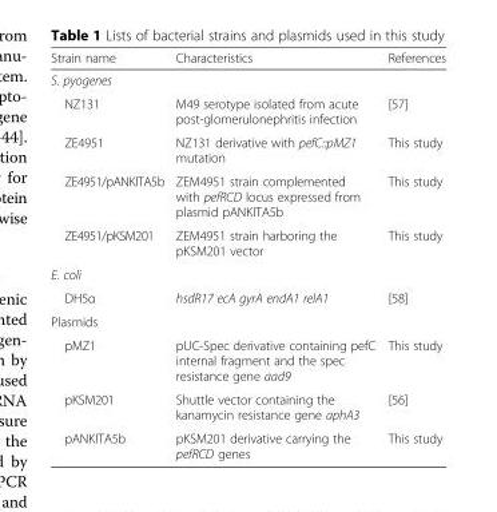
<table><thead><tr><td>Strain name</td><td>Characteristics</td><td>References</td></tr></thead><tbody><tr><td colspan="3">S. pyogenes</td></tr><tr><td>NZ131</td><td>M49 serotype isolated from acute post-glomerulonephritis infection</td><td>[57]</td></tr><tr><td>ZE4951</td><td>NZ131 derivative with pefC::pMZ1 mutation</td><td>This study</td></tr><tr><td>ZE4951/pANKITA5b</td><td>ZEM4951 strain complemented with pefRCD locus expressed from plasmid pANKITA5b</td><td>This study</td></tr><tr><td>ZE4951/pKSM201</td><td>ZEM4951 strain harboring the pKSM201 vector</td><td>This study</td></tr><tr><td colspan="3">E. coli</td></tr><tr><td>DH5α</td><td>hsdR17 ecA gyrA endA1 relA1</td><td>[58]</td></tr><tr><td colspan="3">Plasmids</td></tr><tr><td>pMZ1</td><td>pUC-Spec derivative containing pefC internal fragment and the spec resistance gene aad9</td><td>This study</td></tr><tr><td>pKSM201</td><td>Shuttle vector containing the kanamycin resistance gene aphA3</td><td>[56]</td></tr><tr><td>pANKITA5b</td><td>pKSM201 derivative carrying the pefRCD genes</td><td>This study</td></tr></tbody></table>